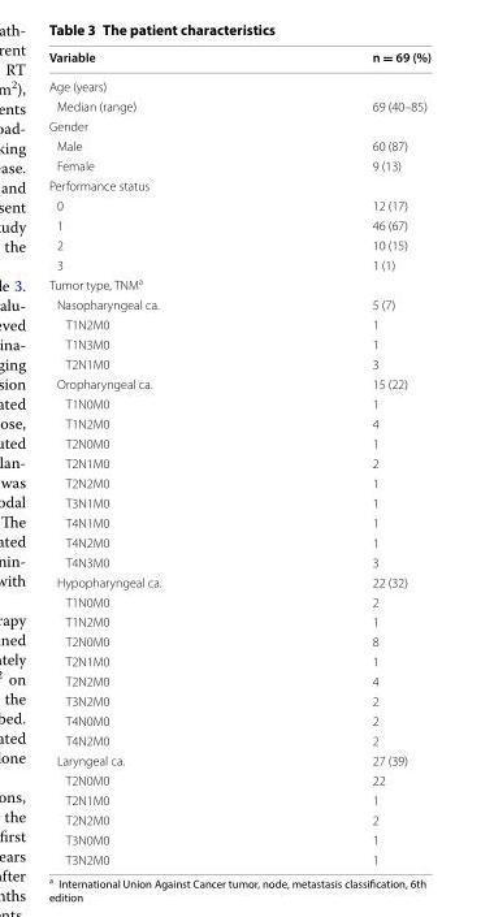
<table><thead><tr><td>Variable</td><td>n = 69 (%)</td></tr></thead><tbody><tr><td colspan="2">Age (years)</td></tr><tr><td>Median (range)</td><td>69 (40–85)</td></tr><tr><td colspan="2">Gender</td></tr><tr><td>Male</td><td>60 (87)</td></tr><tr><td>Female</td><td>9 (13)</td></tr><tr><td colspan="2">Performance status</td></tr><tr><td>0</td><td>12 (17)</td></tr><tr><td>1</td><td>46 (67)</td></tr><tr><td>2</td><td>10 (15)</td></tr><tr><td>3</td><td>1 (1)</td></tr><tr><td colspan="2">Tumor type, TNM<sup>a</sup></td></tr><tr><td>Nasopharyngeal ca.</td><td>5 (7)</td></tr><tr><td>T1N2M0</td><td>1</td></tr><tr><td>T1N3M0</td><td>1</td></tr><tr><td>T2N1M0</td><td>3</td></tr><tr><td>Oropharyngeal ca.</td><td>15 (22)</td></tr><tr><td>T1N0M0</td><td>1</td></tr><tr><td>T1N2M0</td><td>4</td></tr><tr><td>T2N0M0</td><td>1</td></tr><tr><td>T2N1M0</td><td>2</td></tr><tr><td>T2N2M0</td><td>1</td></tr><tr><td>T3N1M0</td><td>1</td></tr><tr><td>T4N1M0</td><td>1</td></tr><tr><td>T4N2M0</td><td>1</td></tr><tr><td>T4N3M0</td><td>3</td></tr><tr><td>Hypopharyngeal ca.</td><td>22 (32)</td></tr><tr><td>T1N0M0</td><td>2</td></tr><tr><td>T1N2M0</td><td>1</td></tr><tr><td>T2N0M0</td><td>8</td></tr><tr><td>T2N1M0</td><td>1</td></tr><tr><td>T2N2M0</td><td>4</td></tr><tr><td>T3N2M0</td><td>2</td></tr><tr><td>T4N0M0</td><td>2</td></tr><tr><td>T4N2M0</td><td>2</td></tr><tr><td>Laryngeal ca.</td><td>27 (39)</td></tr><tr><td>T2N0M0</td><td>22</td></tr><tr><td>T2N1M0</td><td>1</td></tr><tr><td>T2N2M0</td><td>2</td></tr><tr><td>T3N0M0</td><td>1</td></tr><tr><td>T3N2M0</td><td>1</td></tr></tbody></table>